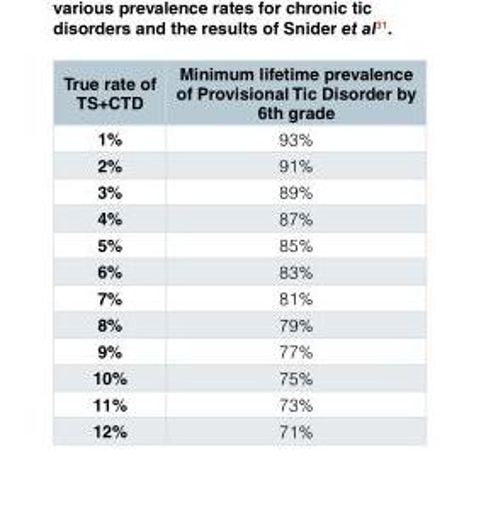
<table><thead><tr><td>True rate of TS+CTD</td><td>Minimum lifetime prevalence of Provisional Tic Disorder by 6th grade</td></tr></thead><tbody><tr><td>1%</td><td>93%</td></tr><tr><td>2%</td><td>91%</td></tr><tr><td>3%</td><td>89%</td></tr><tr><td>4%</td><td>87%</td></tr><tr><td>5%</td><td>85%</td></tr><tr><td>6%</td><td>83%</td></tr><tr><td>7%</td><td>81%</td></tr><tr><td>8%</td><td>79%</td></tr><tr><td>9%</td><td>77%</td></tr><tr><td>10%</td><td>75%</td></tr><tr><td>11%</td><td>73%</td></tr><tr><td>12%</td><td>71%</td></tr></tbody></table>